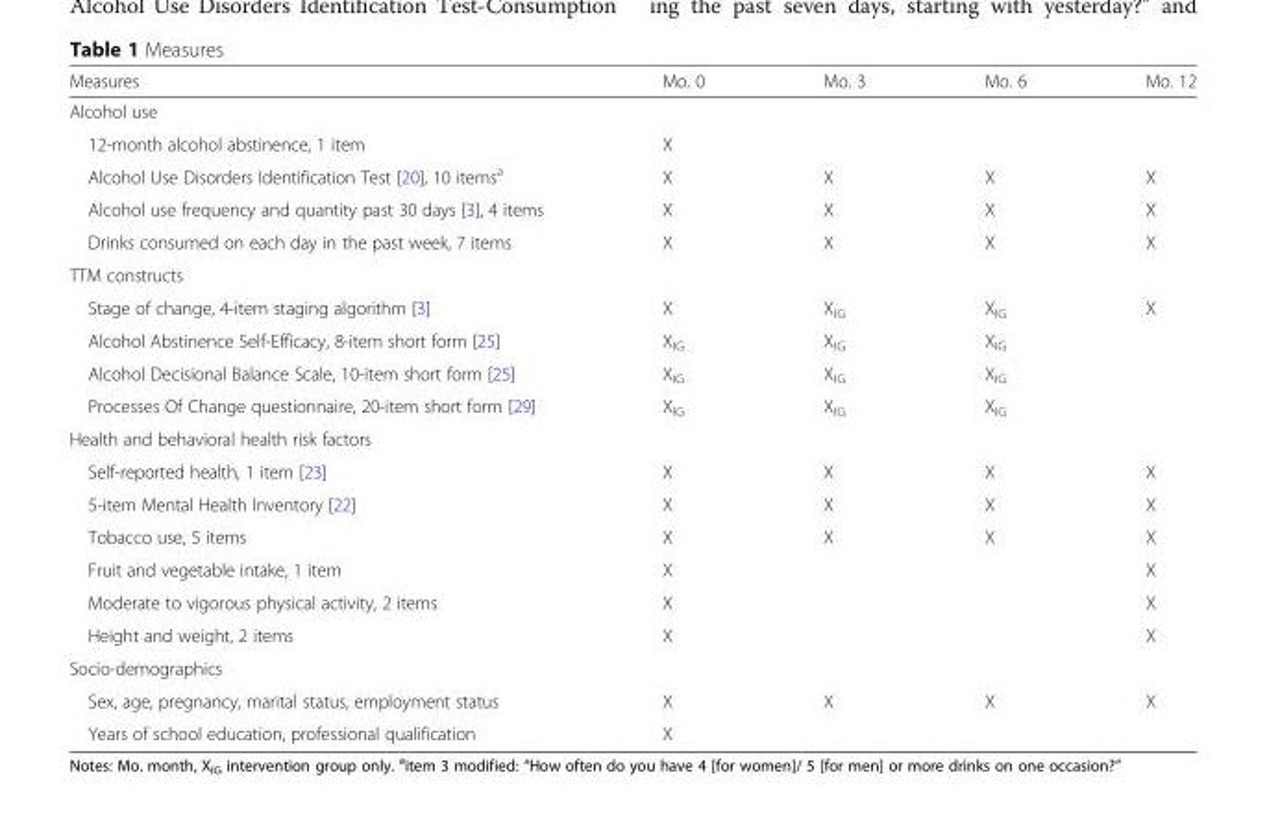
<table><thead><tr><td>Measures</td><td>Mo. 0</td><td>Mo. 3</td><td>Mo. 6</td><td>Mo. 12</td></tr></thead><tbody><tr><td colspan="5">Alcohol use</td></tr><tr><td>12-month alcohol abstinence, 1 item</td><td>X</td><td></td><td></td><td></td></tr><tr><td>Alcohol Use Disorders Identification Test [20], 10 items<sup>a</sup></td><td>X</td><td>X</td><td>X</td><td>X</td></tr><tr><td>Alcohol use frequency and quantity past 30 days [3], 4 items</td><td>X</td><td>X</td><td>X</td><td>X</td></tr><tr><td>Drinks consumed on each day in the past week, 7 items</td><td>X</td><td>X</td><td>X</td><td>X</td></tr><tr><td colspan="5">TTM constructs</td></tr><tr><td>Stage of change, 4-item staging algorithm [3]</td><td>X</td><td>X<sub>IG</sub></td><td>X<sub>IG</sub></td><td>X</td></tr><tr><td>Alcohol Abstinence Self-Efficacy, 8-item short form [25]</td><td>X<sub>IG</sub></td><td>X<sub>IG</sub></td><td>X<sub>IG</sub></td><td></td></tr><tr><td>Alcohol Decisional Balance Scale, 10-item short form [25]</td><td>X<sub>IG</sub></td><td>X<sub>IG</sub></td><td>X<sub>IG</sub></td><td></td></tr><tr><td>Processes Of Change questionnaire, 20-item short form [29]</td><td>X<sub>IG</sub></td><td>X<sub>IG</sub></td><td>X<sub>IG</sub></td><td></td></tr><tr><td colspan="5">Health and behavioral health risk factors</td></tr><tr><td>Self-reported health, 1 item [23]</td><td>X</td><td>X</td><td>X</td><td>X</td></tr><tr><td>5-item Mental Health Inventory [22]</td><td>X</td><td>X</td><td>X</td><td>X</td></tr><tr><td>Tobacco use, 5 items</td><td>X</td><td>X</td><td>X</td><td>X</td></tr><tr><td>Fruit and vegetable intake, 1 item</td><td>X</td><td></td><td></td><td>X</td></tr><tr><td>Moderate to vigorous physical activity, 2 items</td><td>X</td><td></td><td></td><td>X</td></tr><tr><td>Height and weight, 2 items</td><td>X</td><td></td><td></td><td>X</td></tr><tr><td colspan="5">Socio-demographics</td></tr><tr><td>Sex, age, pregnancy, marital status, employment status</td><td>X</td><td>X</td><td>X</td><td>X</td></tr><tr><td>Years of school education, professional qualification</td><td>X</td><td></td><td></td><td></td></tr></tbody></table>